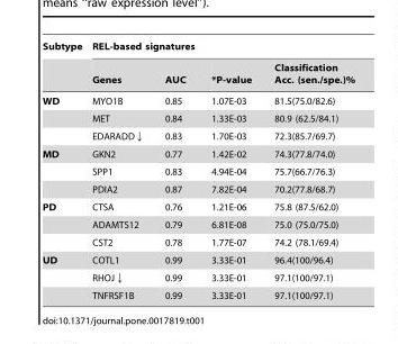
<table><thead><tr><td rowspan="2">Subtype</td><td colspan="4">REL-based signatures</td></tr><tr><td>Genes</td><td>AUC</td><td>*P-value</td><td>Classification Acc. (sen./spe.)%</td></tr></thead><tbody><tr><td rowspan="3">WD</td><td>MYO1B</td><td>0.85</td><td>1.07E-03</td><td>81.5(75.0/82.6)</td></tr><tr><td>MET</td><td>0.84</td><td>1.33E-03</td><td>80.9 (62.5/84.1)</td></tr><tr><td>EDARADD↓</td><td>0.83</td><td>1.70E-03</td><td>72.3(85.7/69.7)</td></tr><tr><td rowspan="3">MD</td><td>GKN2</td><td>0.77</td><td>1.42E-02</td><td>74.3(77.8/74.0)</td></tr><tr><td>SPP1</td><td>0.83</td><td>4.94E-04</td><td>75.7(66.7/76.3)</td></tr><tr><td>PDIA2</td><td>0.87</td><td>7.82E-04</td><td>70.2(77.8/68.7)</td></tr><tr><td rowspan="3">PD</td><td>CTSA</td><td>0.76</td><td>1.21E-06</td><td>75.8 (87.5/62.0)</td></tr><tr><td>ADAMTS12</td><td>0.79</td><td>6.81E-08</td><td>75.0 (75.0/75.0)</td></tr><tr><td>CST2</td><td>0.78</td><td>1.77E-07</td><td>74.2 (78.1/69.4)</td></tr><tr><td rowspan="3">UD</td><td>COTL1</td><td>0.99</td><td>3.33E-01</td><td>96.4(100/96.4)</td></tr><tr><td>RHOJ↓</td><td>0.99</td><td>3.33E-01</td><td>97.1(100/97.1)</td></tr><tr><td>TNFRSF1B</td><td>0.99</td><td>3.33E-01</td><td>97.1(100/97.1)</td></tr></tbody></table>